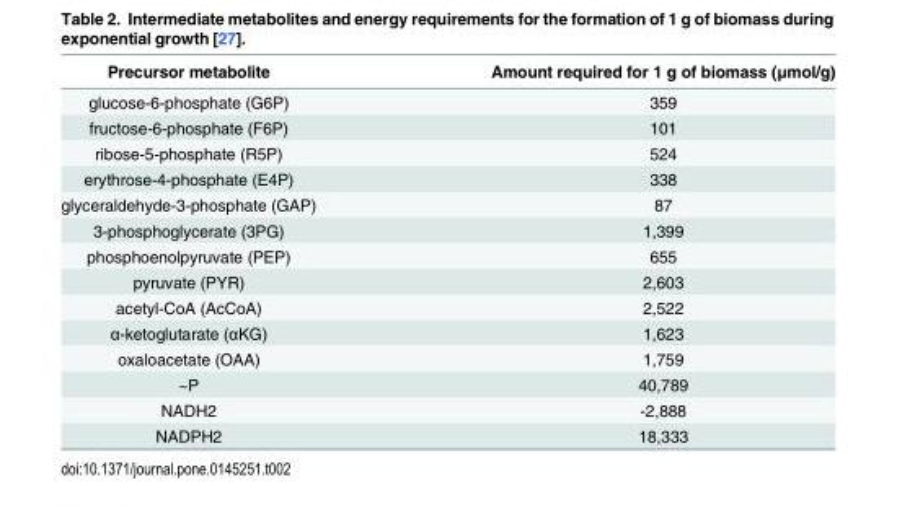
<table><thead><tr><td>Precursor metabolite</td><td>Amount required for 1 g of biomass (μmol/g)</td></tr></thead><tbody><tr><td>glucose-6-phosphate (G6P)</td><td>359</td></tr><tr><td>fructose-6-phosphate (F6P)</td><td>101</td></tr><tr><td>ribose-5-phosphate (R5P)</td><td>524</td></tr><tr><td>erythrose-4-phosphate (E4P)</td><td>338</td></tr><tr><td>glyceraldehyde-3-phosphate (GAP)</td><td>87</td></tr><tr><td>3-phosphoglycerate (3PG)</td><td>1,399</td></tr><tr><td>phosphoenolpyruvate (PEP)</td><td>655</td></tr><tr><td>pyruvate (PYR)</td><td>2,603</td></tr><tr><td>acetyl-CoA (AcCoA)</td><td>2,522</td></tr><tr><td>α-ketoglutarate (αKG)</td><td>1,623</td></tr><tr><td>oxaloacetate (OAA)</td><td>1,759</td></tr><tr><td>~P</td><td>40,789</td></tr><tr><td>NADH2</td><td>-2,888</td></tr><tr><td>NADPH2</td><td>18,333</td></tr></tbody></table>